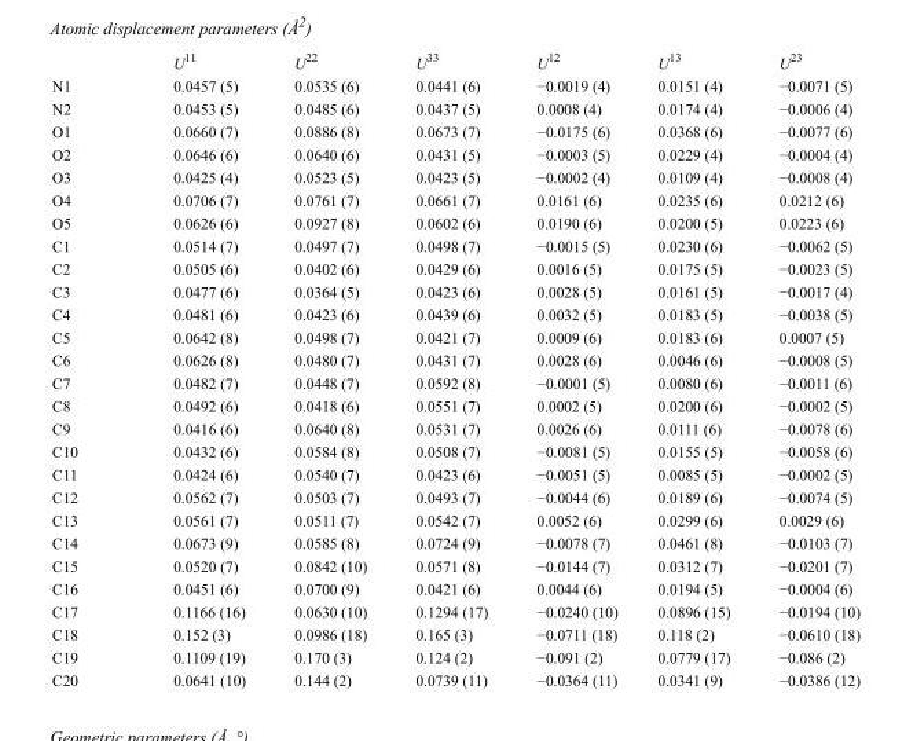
<table><thead><tr><td></td><td>U<sup>11</sup></td><td>U<sup>22</sup></td><td>U<sup>33</sup></td><td>U<sup>12</sup></td><td>U<sup>13</sup></td><td>U<sup>23</sup></td></tr></thead><tbody><tr><td>N1</td><td>0.0457 (5)</td><td>0.0535 (6)</td><td>0.0441 (6)</td><td>−0.0019 (4)</td><td>0.0151 (4)</td><td>−0.0071 (5)</td></tr><tr><td>N2</td><td>0.0453 (5)</td><td>0.0485 (6)</td><td>0.0437 (5)</td><td>0.0008 (4)</td><td>0.0174 (4)</td><td>−0.0006 (4)</td></tr><tr><td>O1</td><td>0.0660 (7)</td><td>0.0886 (8)</td><td>0.0673 (7)</td><td>−0.0175 (6)</td><td>0.0368 (6)</td><td>−0.0077 (6)</td></tr><tr><td>O2</td><td>0.0646 (6)</td><td>0.0640 (6)</td><td>0.0431 (5)</td><td>−0.0003 (5)</td><td>0.0229 (4)</td><td>−0.0004 (4)</td></tr><tr><td>O3</td><td>0.0425 (4)</td><td>0.0523 (5)</td><td>0.0423 (5)</td><td>−0.0002 (4)</td><td>0.0109 (4)</td><td>−0.0008 (4)</td></tr><tr><td>O4</td><td>0.0706 (7)</td><td>0.0761 (7)</td><td>0.0661 (7)</td><td>0.0161 (6)</td><td>0.0235 (6)</td><td>0.0212 (6)</td></tr><tr><td>O5</td><td>0.0626 (6)</td><td>0.0927 (8)</td><td>0.0602 (6)</td><td>0.0190 (6)</td><td>0.0200 (5)</td><td>0.0223 (6)</td></tr><tr><td>C1</td><td>0.0514 (7)</td><td>0.0497 (7)</td><td>0.0498 (7)</td><td>−0.0015 (5)</td><td>0.0230 (6)</td><td>−0.0062 (5)</td></tr><tr><td>C2</td><td>0.0505 (6)</td><td>0.0402 (6)</td><td>0.0429 (6)</td><td>0.0016 (5)</td><td>0.0175 (5)</td><td>−0.0023 (5)</td></tr><tr><td>C3</td><td>0.0477 (6)</td><td>0.0364 (5)</td><td>0.0423 (6)</td><td>0.0028 (5)</td><td>0.0161 (5)</td><td>−0.0017 (4)</td></tr><tr><td>C4</td><td>0.0481 (6)</td><td>0.0423 (6)</td><td>0.0439 (6)</td><td>0.0032 (5)</td><td>0.0183 (5)</td><td>−0.0038 (5)</td></tr><tr><td>C5</td><td>0.0642 (8)</td><td>0.0498 (7)</td><td>0.0421 (7)</td><td>0.0009 (6)</td><td>0.0183 (6)</td><td>0.0007 (5)</td></tr><tr><td>C6</td><td>0.0626 (8)</td><td>0.0480 (7)</td><td>0.0431 (7)</td><td>0.0028 (6)</td><td>0.0046 (6)</td><td>−0.0008 (5)</td></tr><tr><td>C7</td><td>0.0482 (7)</td><td>0.0448 (7)</td><td>0.0592 (8)</td><td>−0.0001 (5)</td><td>0.0080 (6)</td><td>−0.0011 (6)</td></tr><tr><td>C8</td><td>0.0492 (6)</td><td>0.0418 (6)</td><td>0.0551 (7)</td><td>0.0002 (5)</td><td>0.0200 (6)</td><td>−0.0002 (5)</td></tr><tr><td>C9</td><td>0.0416 (6)</td><td>0.0640 (8)</td><td>0.0531 (7)</td><td>0.0026 (6)</td><td>0.0111 (6)</td><td>−0.0078 (6)</td></tr><tr><td>C10</td><td>0.0432 (6)</td><td>0.0584 (8)</td><td>0.0508 (7)</td><td>−0.0081 (5)</td><td>0.0155 (5)</td><td>−0.0058 (6)</td></tr><tr><td>C11</td><td>0.0424 (6)</td><td>0.0540 (7)</td><td>0.0423 (6)</td><td>−0.0051 (5)</td><td>0.0085 (5)</td><td>−0.0002 (5)</td></tr><tr><td>C12</td><td>0.0562 (7)</td><td>0.0503 (7)</td><td>0.0493 (7)</td><td>−0.0044 (6)</td><td>0.0189 (6)</td><td>−0.0074 (5)</td></tr><tr><td>C13</td><td>0.0561 (7)</td><td>0.0511 (7)</td><td>0.0542 (7)</td><td>0.0052 (6)</td><td>0.0299 (6)</td><td>0.0029 (6)</td></tr><tr><td>C14</td><td>0.0673 (9)</td><td>0.0585 (8)</td><td>0.0724 (9)</td><td>−0.0078 (7)</td><td>0.0461 (8)</td><td>−0.0103 (7)</td></tr><tr><td>C15</td><td>0.0520 (7)</td><td>0.0842 (10)</td><td>0.0571 (8)</td><td>−0.0144 (7)</td><td>0.0312 (7)</td><td>−0.0201 (7)</td></tr><tr><td>C16</td><td>0.0451 (6)</td><td>0.0700 (9)</td><td>0.0421 (6)</td><td>0.0044 (6)</td><td>0.0194 (5)</td><td>−0.0004 (6)</td></tr><tr><td>C17</td><td>0.1166 (16)</td><td>0.0630 (10)</td><td>0.1294 (17)</td><td>−0.0240 (10)</td><td>0.0896 (15)</td><td>−0.0194 (10)</td></tr><tr><td>C18</td><td>0.152 (3)</td><td>0.0986 (18)</td><td>0.165 (3)</td><td>−0.0711 (18)</td><td>0.118 (2)</td><td>−0.0610 (18)</td></tr><tr><td>C19</td><td>0.1109 (19)</td><td>0.170 (3)</td><td>0.124 (2)</td><td>−0.091 (2)</td><td>0.0779 (17)</td><td>−0.086 (2)</td></tr><tr><td>C20</td><td>0.0641 (10)</td><td>0.144 (2)</td><td>0.0739 (11)</td><td>−0.0364 (11)</td><td>0.0341 (9)</td><td>−0.0386 (12)</td></tr></tbody></table>